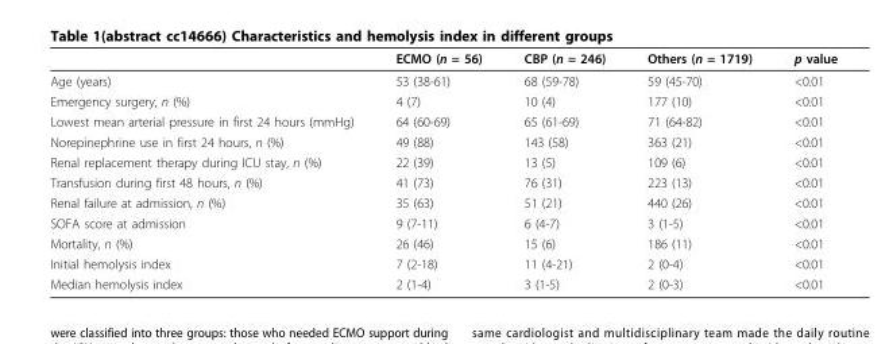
<table><thead><tr><td></td><td>ECMO (n = 56)</td><td>CBP (n = 246)</td><td>Others (n = 1719)</td><td>p value</td></tr></thead><tbody><tr><td>Age (years)</td><td>53 (38-61)</td><td>68 (59-78)</td><td>59 (45-70)</td><td>&lt;0.01</td></tr><tr><td>Emergency surgery, n (%)</td><td>4 (7)</td><td>10 (4)</td><td>177 (10)</td><td>&lt;0.01</td></tr><tr><td>Lowest mean arterial pressure in first 24 hours (mmHg)</td><td>64 (60-69)</td><td>65 (61-69)</td><td>71 (64-82)</td><td>&lt;0.01</td></tr><tr><td>Norepinephrine use in first 24 hours, n (%)</td><td>49 (88)</td><td>143 (58)</td><td>363 (21)</td><td>&lt;0.01</td></tr><tr><td>Renal replacement therapy during ICU stay, n (%)</td><td>22 (39)</td><td>13 (5)</td><td>109 (6)</td><td>&lt;0.01</td></tr><tr><td>Transfusion during first 48 hours, n (%)</td><td>41 (73)</td><td>76 (31)</td><td>223 (13)</td><td>&lt;0.01</td></tr><tr><td>Renal failure at admission, n (%)</td><td>35 (63)</td><td>51 (21)</td><td>440 (26)</td><td>&lt;0.01</td></tr><tr><td>SOFA score at admission</td><td>9 (7-11)</td><td>6 (4-7)</td><td>3 (1-5)</td><td>&lt;0.01</td></tr><tr><td>Mortality, n (%)</td><td>26 (46)</td><td>15 (6)</td><td>186 (11)</td><td>&lt;0.01</td></tr><tr><td>Initial hemolysis index</td><td>7 (2-18)</td><td>11 (4-21)</td><td>2 (0-4)</td><td>&lt;0.01</td></tr><tr><td>Median hemolysis index</td><td>2 (1-4)</td><td>3 (1-5)</td><td>2 (0-3)</td><td>&lt;0.01</td></tr></tbody></table>